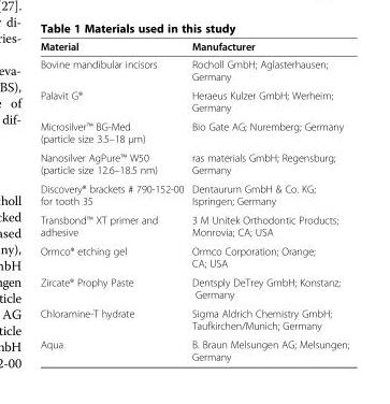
<table><thead><tr><td>Material</td><td>Manufacturer</td></tr></thead><tbody><tr><td>Bovine mandibular incisors</td><td>Rocholl GmbH; Aglasterhausen; Germany</td></tr><tr><td>Palavit G®</td><td>Heraeus Kulzer GmbH; Werheim; Germany</td></tr><tr><td>Microsilver™ BG-Med (particle size 3.5–18 μm)</td><td>Bio Gate AG; Nuremberg; Germany</td></tr><tr><td>Nanosilver AgPure™ W50 (particle size 12.6–18.5 nm)</td><td>ras materials GmbH; Regensburg; Germany</td></tr><tr><td>Discovery® brackets # 790-152-00 for tooth 35</td><td>Dentaurum GmbH &amp; Co. KG; Ispringen; Germany</td></tr><tr><td>Transbond™ XT primer and adhesive</td><td>3 M Unitek Orthodontic Products; Monrovia; CA; USA</td></tr><tr><td>Ormco® etching gel</td><td>Ormco Corporation; Orange; CA; USA</td></tr><tr><td>Zircate® Prophy Paste</td><td>Dentsply DeTrey GmbH; Konstanz; Germany</td></tr><tr><td>Chloramine-T hydrate</td><td>Sigma Aldrich Chemistry GmbH; Taufkirchen/Munich; Germany</td></tr><tr><td>Aqua</td><td>B. Braun Melsungen AG; Melsungen; Germany</td></tr></tbody></table>